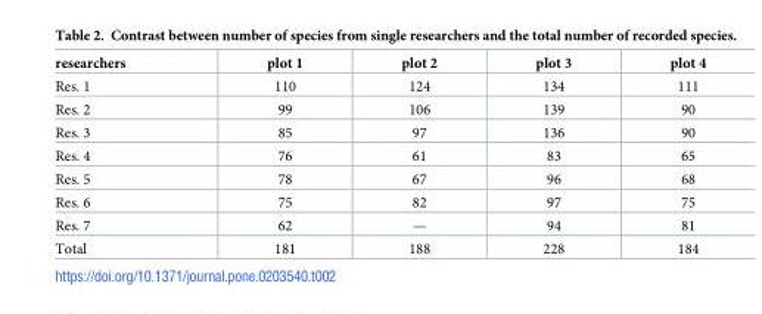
<table><thead><tr><td>researchers</td><td>plot 1</td><td>plot 2</td><td>plot 3</td><td>plot 4</td></tr></thead><tbody><tr><td>Res. 1</td><td>110</td><td>124</td><td>134</td><td>111</td></tr><tr><td>Res. 2</td><td>99</td><td>106</td><td>139</td><td>90</td></tr><tr><td>Res. 3</td><td>85</td><td>97</td><td>136</td><td>90</td></tr><tr><td>Res. 4</td><td>76</td><td>61</td><td>83</td><td>65</td></tr><tr><td>Res. 5</td><td>78</td><td>67</td><td>96</td><td>68</td></tr><tr><td>Res. 6</td><td>75</td><td>82</td><td>97</td><td>75</td></tr><tr><td>Res. 7</td><td>62</td><td>—</td><td>94</td><td>81</td></tr><tr><td>Total</td><td>181</td><td>188</td><td>228</td><td>184</td></tr></tbody></table>